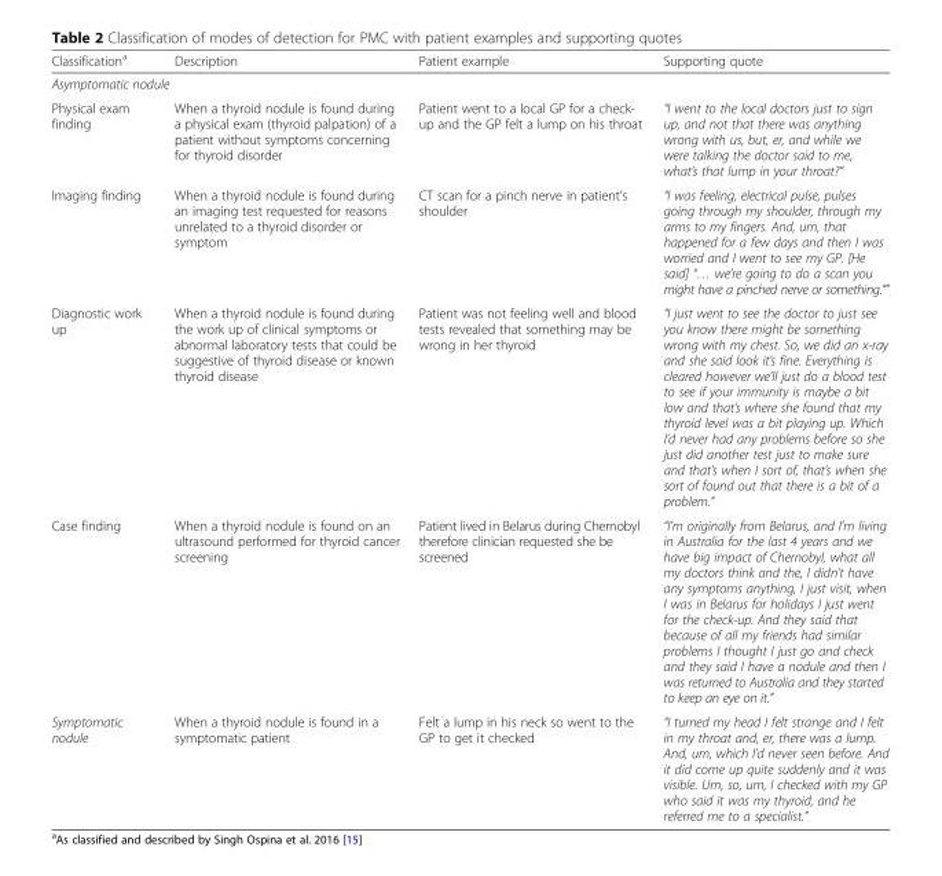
<table><thead><tr><td>Classification<sup>a</sup></td><td>Description</td><td>Patient example</td><td>Supporting quote</td></tr></thead><tbody><tr><td colspan="4">Asymptomatic nodule</td></tr><tr><td>Physical exam finding</td><td>When a thyroid nodule is found during a physical exam (thyroid palpation) of a patient without symptoms concerning for thyroid disorder</td><td>Patient went to a local GP for a check- up and the GP felt a lump on his throat</td><td>“I went to the local doctors just to sign up, and not that there was anything wrong with us, but, er, and while we were talking the doctor said to me, what’s that lump in your throat?”</td></tr><tr><td>Imaging finding</td><td>When a thyroid nodule is found during an imaging test requested for reasons unrelated to a thyroid disorder or symptom</td><td>CT scan for a pinch nerve in patient’s shoulder</td><td>“I was feeling, electrical pulse, pulses going through my shoulder, through my arms to my fingers. And, um, that happened for a few days and then I was worried and I went to see my GP. [He said] “… we’re going to do a scan you might have a pinched nerve or something.””</td></tr><tr><td>Diagnostic work up</td><td>When a thyroid nodule is found during the work up of clinical symptoms or abnormal laboratory tests that could be suggestive of thyroid disease or known thyroid disease</td><td>Patient was not feeling well and blood tests revealed that something may be wrong in her thyroid</td><td>“I just went to see the doctor to just see you know there might be something wrong with my chest. So, we did an x-ray and she said look it’s fine. Everything is cleared however we’ll just do a blood test to see if your immunity is maybe a bit low and that’s where she found that my thyroid level was a bit playing up. Which I’d never had any problems before so she just did another test just to make sure and that’s when I sort of, that’s when she sort of found out that there is a bit of a problem.”</td></tr><tr><td>Case finding</td><td>When a thyroid nodule is found on an ultrasound performed for thyroid cancer screening</td><td>Patient lived in Belarus during Chernobyl therefore clinician requested she be screened</td><td>“I’m originally from Belarus, and I’m living in Australia for the last 4 years and we have big impact of Chernobyl, what all my doctors think and the, I didn’t have any symptoms anything, I just visit, when I was in Belarus for holidays I just went for the check-up. And they said that because of all my friends had similar problems I thought I just go and check and they said I have a nodule and then I was returned to Australia and they started to keep an eye on it.”</td></tr><tr><td>Symptomatic nodule</td><td>When a thyroid nodule is found in a symptomatic patient</td><td>Felt a lump in his neck so went to the GP to get it checked</td><td>“I turned my head I felt strange and I felt in my throat and, er, there was a lump. And, um, which I’d never seen before. And it did come up quite suddenly and it was visible. Um, so, um, I checked with my GP who said it was my thyroid, and he referred me to a specialist.”</td></tr></tbody></table>